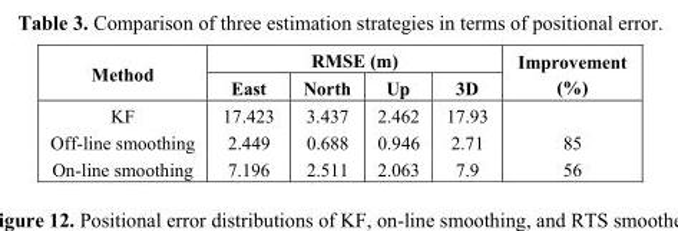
<table><thead><tr><td rowspan="2">Method</td><td colspan="4">RMSE (m)</td><td rowspan="2">Improvement (%)</td></tr><tr><td>East</td><td>North</td><td>Up</td><td>3D</td></tr></thead><tbody><tr><td>KF</td><td>17.423</td><td>3.437</td><td>2.462</td><td>17.93</td><td></td></tr><tr><td>Off-line smoothing</td><td>2.449</td><td>0.688</td><td>0.946</td><td>2.71</td><td>85</td></tr><tr><td>On-line smoothing</td><td>7.196</td><td>2.511</td><td>2.063</td><td>7.9</td><td>56</td></tr></tbody></table>